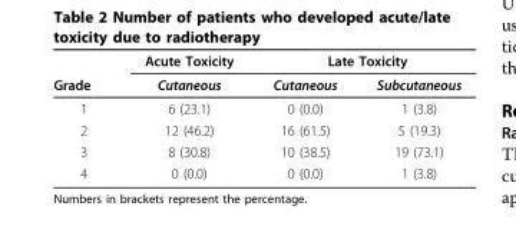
<table><thead><tr><td rowspan="2">Grade</td><td rowspan="2">Acute Toxicity Cutaneous</td><td colspan="2">Late Toxicity</td></tr><tr><td>Cutaneous</td><td>Subcutaneous</td></tr></thead><tbody><tr><td>1</td><td>6 (23.1)</td><td>0 (0.0)</td><td>1 (3.8)</td></tr><tr><td>2</td><td>12 (46.2)</td><td>16 (61.5)</td><td>5 (19.3)</td></tr><tr><td>3</td><td>8 (30.8)</td><td>10 (38.5)</td><td>19 (73.1)</td></tr><tr><td>4</td><td>0 (0.0)</td><td>0 (0.0)</td><td>1 (3.8)</td></tr></tbody></table>